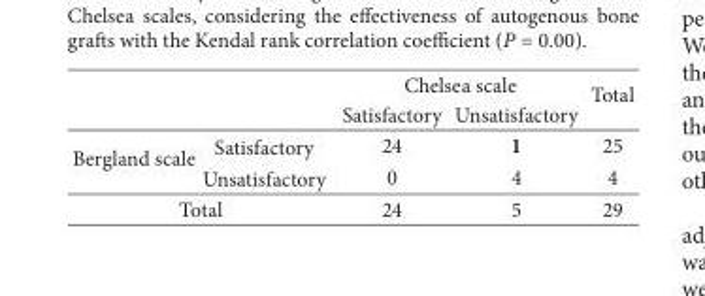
<table><thead><tr><td rowspan="2"></td><td rowspan="2"></td><td colspan="2">Chelsea scale</td><td rowspan="2">Total</td></tr><tr><td>Satisfactory</td><td>Unsatisfactory</td></tr></thead><tbody><tr><td rowspan="2">Bergland scale</td><td>Satisfactory</td><td>24</td><td>1</td><td>25</td></tr><tr><td>Unsatisfactory</td><td>0</td><td>4</td><td>4</td></tr><tr><td colspan="2">Total</td><td>24</td><td>5</td><td>29</td></tr></tbody></table>